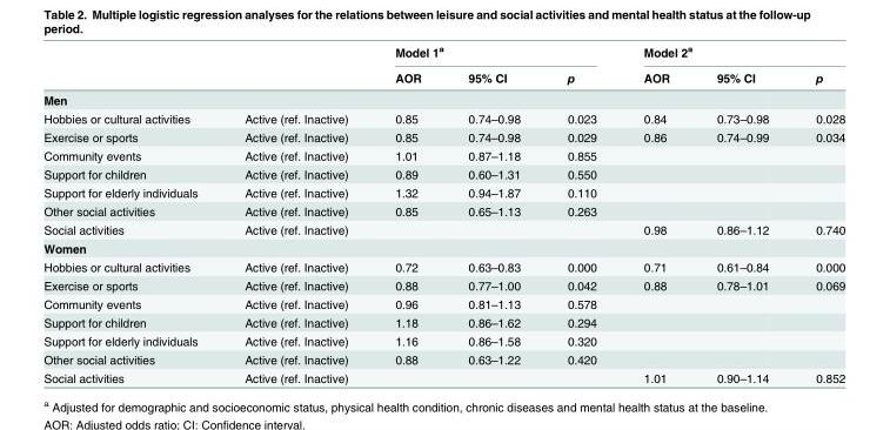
<table><thead><tr><td rowspan="2"></td><td rowspan="2"></td><td colspan="3">Model 1<sup>a</sup></td><td colspan="3">Model 2<sup>a</sup></td></tr><tr><td>AOR</td><td>95% CI</td><td>p</td><td>AOR</td><td>95% CI</td><td>p</td></tr></thead><tbody><tr><td colspan="8">Men</td></tr><tr><td>Hobbies or cultural activities</td><td>Active (ref. Inactive)</td><td>0.85</td><td>0.74–0.98</td><td>0.023</td><td>0.84</td><td>0.73–0.98</td><td>0.028</td></tr><tr><td>Exercise or sports</td><td>Active (ref. Inactive)</td><td>0.85</td><td>0.74–0.98</td><td>0.029</td><td>0.86</td><td>0.74–0.99</td><td>0.034</td></tr><tr><td>Community events</td><td>Active (ref. Inactive)</td><td>1.01</td><td>0.87–1.18</td><td>0.855</td><td></td><td></td><td></td></tr><tr><td>Support for children</td><td>Active (ref. Inactive)</td><td>0.89</td><td>0.60–1.31</td><td>0.550</td><td></td><td></td><td></td></tr><tr><td>Support for elderly individuals</td><td>Active (ref. Inactive)</td><td>1.32</td><td>0.94–1.87</td><td>0.110</td><td></td><td></td><td></td></tr><tr><td>Other social activities</td><td>Active (ref. Inactive)</td><td>0.85</td><td>0.65–1.13</td><td>0.263</td><td></td><td></td><td></td></tr><tr><td>Social activities</td><td>Active (ref. Inactive)</td><td></td><td></td><td></td><td>0.98</td><td>0.86–1.12</td><td>0.740</td></tr><tr><td colspan="8">Women</td></tr><tr><td>Hobbies or cultural activities</td><td>Active (ref. Inactive)</td><td>0.72</td><td>0.63–0.83</td><td>0.000</td><td>0.71</td><td>0.61–0.84</td><td>0.000</td></tr><tr><td>Exercise or sports</td><td>Active (ref. Inactive)</td><td>0.88</td><td>0.77–1.00</td><td>0.042</td><td>0.88</td><td>0.78–1.01</td><td>0.069</td></tr><tr><td>Community events</td><td>Active (ref. Inactive)</td><td>0.96</td><td>0.81–1.13</td><td>0.578</td><td></td><td></td><td></td></tr><tr><td>Support for children</td><td>Active (ref. Inactive)</td><td>1.18</td><td>0.86–1.62</td><td>0.294</td><td></td><td></td><td></td></tr><tr><td>Support for elderly individuals</td><td>Active (ref. Inactive)</td><td>1.16</td><td>0.86–1.58</td><td>0.320</td><td></td><td></td><td></td></tr><tr><td>Other social activities</td><td>Active (ref. Inactive)</td><td>0.88</td><td>0.63–1.22</td><td>0.420</td><td></td><td></td><td></td></tr><tr><td>Social activities</td><td>Active (ref. Inactive)</td><td></td><td></td><td></td><td>1.01</td><td>0.90–1.14</td><td>0.852</td></tr></tbody></table>